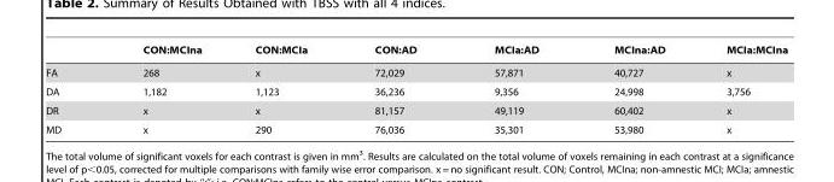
<table><thead><tr><td></td><td>CON:MCIna</td><td>CON:MCIa</td><td>CON:AD</td><td>MCIa:AD</td><td>MCIna:AD</td><td>MCIa:MCIna</td></tr></thead><tbody><tr><td>FA</td><td>268</td><td>x</td><td>72,029</td><td>57,871</td><td>40,727</td><td>x</td></tr><tr><td>DA</td><td>1,182</td><td>1,123</td><td>36,236</td><td>9,356</td><td>24,998</td><td>3,756</td></tr><tr><td>DR</td><td>x</td><td>x</td><td>81,157</td><td>49,119</td><td>60,402</td><td>x</td></tr><tr><td>MD</td><td>x</td><td>290</td><td>76,036</td><td>35,301</td><td>53,980</td><td>x</td></tr></tbody></table>